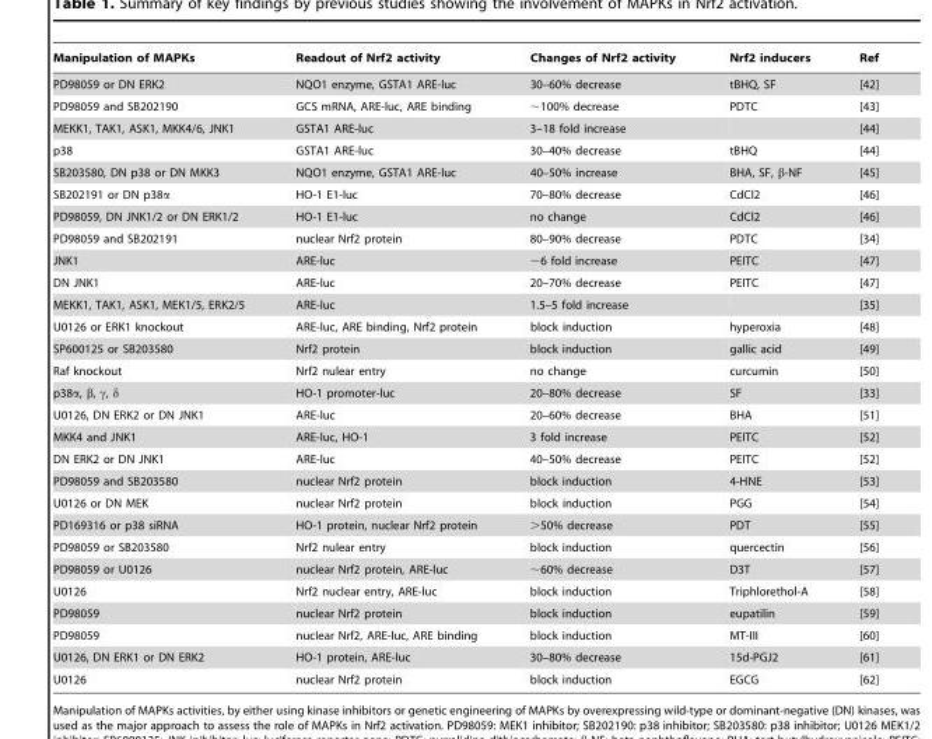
<table><thead><tr><td>Manipulation of MAPKs</td><td>Readout of Nrf2 activity</td><td>Changes of Nrf2 activity</td><td>Nrf2 inducers</td><td>Ref</td></tr></thead><tbody><tr><td>PD98059 or DN ERK2</td><td>NQO1 enzyme, GSTA1 ARE-luc</td><td>30–60% decrease</td><td>tBHQ, SF</td><td>[42]</td></tr><tr><td>PD98059 and SB202190</td><td>GCS mRNA, ARE-luc, ARE binding</td><td>∼100% decrease</td><td>PDTC</td><td>[43]</td></tr><tr><td>MEKK1, TAK1, ASK1, MKK4/6, JNK1</td><td>GSTA1 ARE-luc</td><td>3–18 fold increase</td><td></td><td>[44]</td></tr><tr><td>p38</td><td>GSTA1 ARE-luc</td><td>30–40% decrease</td><td>tBHQ</td><td>[44]</td></tr><tr><td>SB203580, DN p38 or DN MKK3</td><td>NQO1 enzyme, GSTA1 ARE-luc</td><td>40–50% increase</td><td>BHA, SF, β-NF</td><td>[45]</td></tr><tr><td>SB202191 or DN p38α</td><td>HO-1 E1-luc</td><td>70–80% decrease</td><td>CdCl2</td><td>[46]</td></tr><tr><td>PD98059, DN JNK1/2 or DN ERK1/2</td><td>HO-1 E1-luc</td><td>no change</td><td>CdCl2</td><td>[46]</td></tr><tr><td>PD98059 and SB202191</td><td>nuclear Nrf2 protein</td><td>80–90% decrease</td><td>PDTC</td><td>[34]</td></tr><tr><td>JNK1</td><td>ARE-luc</td><td>∼6 fold increase</td><td>PEITC</td><td>[47]</td></tr><tr><td>DN JNK1</td><td>ARE-luc</td><td>20–70% decrease</td><td>PEITC</td><td>[47]</td></tr><tr><td>MEKK1, TAK1, ASK1, MEK1/5, ERK2/5</td><td>ARE-luc</td><td>1.5–5 fold increase</td><td></td><td>[35]</td></tr><tr><td>U0126 or ERK1 knockout</td><td>ARE-luc, ARE binding, Nrf2 protein</td><td>block induction</td><td>hyperoxia</td><td>[48]</td></tr><tr><td>SP600125 or SB203580</td><td>Nrf2 protein</td><td>block induction</td><td>gallic acid</td><td>[49]</td></tr><tr><td>Raf knockout</td><td>Nrf2 nulear entry</td><td>no change</td><td>curcumin</td><td>[50]</td></tr><tr><td>p38α, β, γ, δ</td><td>HO-1 promoter-luc</td><td>20–80% decrease</td><td>SF</td><td>[33]</td></tr><tr><td>U0126, DN ERK2 or DN JNK1</td><td>ARE-luc</td><td>20–60% decrease</td><td>BHA</td><td>[51]</td></tr><tr><td>MKK4 and JNK1</td><td>ARE-luc, HO-1</td><td>3 fold increase</td><td>PEITC</td><td>[52]</td></tr><tr><td>DN ERK2 or DN JNK1</td><td>ARE-luc</td><td>40–50% decrease</td><td>PEITC</td><td>[52]</td></tr><tr><td>PD98059 and SB203580</td><td>nuclear Nrf2 protein</td><td>block induction</td><td>4-HNE</td><td>[53]</td></tr><tr><td>U0126 or DN MEK</td><td>nuclear Nrf2 protein</td><td>block induction</td><td>PGG</td><td>[54]</td></tr><tr><td>PD169316 or p38 siRNA</td><td>HO-1 protein, nuclear Nrf2 protein</td><td>&gt;50% decrease</td><td>PDT</td><td>[55]</td></tr><tr><td>PD98059 or SB203580</td><td>Nrf2 nulear entry</td><td>block induction</td><td>quercectin</td><td>[56]</td></tr><tr><td>PD98059 or U0126</td><td>nuclear Nrf2 protein, ARE-luc</td><td>∼60% decrease</td><td>D3T</td><td>[57]</td></tr><tr><td>U0126</td><td>Nrf2 nuclear entry, ARE-luc</td><td>block induction</td><td>Triphlorethol-A</td><td>[58]</td></tr><tr><td>PD98059</td><td>nuclear Nrf2 protein</td><td>block induction</td><td>eupatilin</td><td>[59]</td></tr><tr><td>PD98059</td><td>nuclear Nrf2, ARE-luc, ARE binding</td><td>block induction</td><td>MT-III</td><td>[60]</td></tr><tr><td>U0126, DN ERK1 or DN ERK2</td><td>HO-1 protein, ARE-luc</td><td>30–80% decrease</td><td>15d-PGJ2</td><td>[61]</td></tr><tr><td>U0126</td><td>nuclear Nrf2 protein</td><td>block induction</td><td>EGCG</td><td>[62]</td></tr></tbody></table>